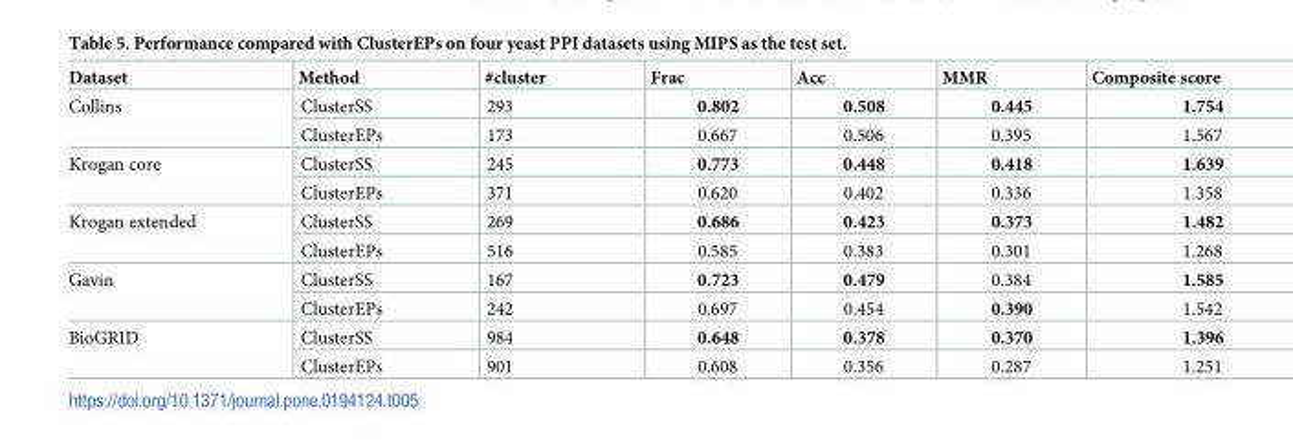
<table><thead><tr><td>Dataset</td><td>Method</td><td>#cluster</td><td>Frac</td><td>Acc</td><td>MMR</td><td>Composite score</td></tr></thead><tbody><tr><td rowspan="2">Collins</td><td>ClusterSS</td><td>293</td><td>0.802</td><td>0.508</td><td>0.445</td><td>1.754</td></tr><tr><td>ClusterEPs</td><td>173</td><td>0.667</td><td>0.506</td><td>0.395</td><td>1.567</td></tr><tr><td rowspan="2">Krogan core</td><td>ClusterSS</td><td>245</td><td>0.773</td><td>0.448</td><td>0.418</td><td>1.639</td></tr><tr><td>ClusterEPs</td><td>371</td><td>0.620</td><td>0.402</td><td>0.336</td><td>1.358</td></tr><tr><td rowspan="2">Krogan extended</td><td>ClusterSS</td><td>269</td><td>0.686</td><td>0.423</td><td>0.373</td><td>1.482</td></tr><tr><td>ClusterEPs</td><td>516</td><td>0.585</td><td>0.383</td><td>0.301</td><td>1.268</td></tr><tr><td rowspan="2">Gavin</td><td>ClusterSS</td><td>167</td><td>0.723</td><td>0.479</td><td>0.384</td><td>1.585</td></tr><tr><td>ClusterEPs</td><td>242</td><td>0.697</td><td>0.454</td><td>0.390</td><td>1.542</td></tr><tr><td rowspan="2">BioGRID</td><td>ClusterSS</td><td>984</td><td>0.648</td><td>0.378</td><td>0.370</td><td>1.396</td></tr><tr><td>ClusterEPs</td><td>901</td><td>0.608</td><td>0.356</td><td>0.287</td><td>1.251</td></tr></tbody></table>